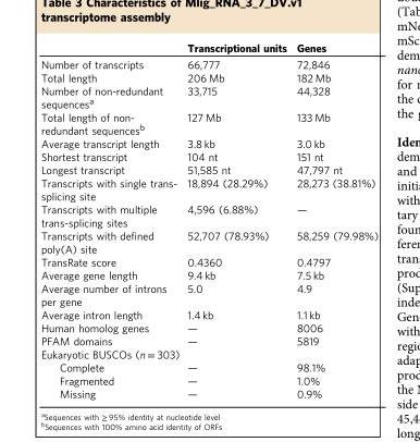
<table><thead><tr><td></td><td>Transcriptional units</td><td>Genes</td></tr></thead><tbody><tr><td>Number of transcripts</td><td>66,777</td><td>72,846</td></tr><tr><td>Total length</td><td>206 Mb</td><td>182 Mb</td></tr><tr><td>Number of non-redundant sequences<sup>a</sup></td><td>33,715</td><td>44,328</td></tr><tr><td>Total length of non- redundant sequences<sup>b</sup></td><td>127 Mb</td><td>133 Mb</td></tr><tr><td>Average transcript length</td><td>3.8 kb</td><td>3.0 kb</td></tr><tr><td>Shortest transcript</td><td>104 nt</td><td>151 nt</td></tr><tr><td>Longest transcript</td><td>51,585 nt</td><td>47,797 nt</td></tr><tr><td>Transcripts with single trans- splicing site</td><td>18,894 (28.29%)</td><td>28,273 (38.81%)</td></tr><tr><td>Transcripts with multiple trans-splicing sites</td><td>4,596 (6.88%)</td><td>—</td></tr><tr><td>Transcripts with defined poly(A) site</td><td>52,707 (78.93%)</td><td>58,259 (79.98%)</td></tr><tr><td>TransRate score</td><td>0.4360</td><td>0.4797</td></tr><tr><td>Average gene length</td><td>9.4 kb</td><td>7.5 kb</td></tr><tr><td>Average number of introns per gene</td><td>5.0</td><td>4.9</td></tr><tr><td>Average intron length</td><td>1.4 kb</td><td>1.1 kb</td></tr><tr><td>Human homolog genes</td><td>—</td><td>8006</td></tr><tr><td>PFAM domains</td><td>—</td><td>5819</td></tr><tr><td colspan="3">Eukaryotic BUSCOs (n = 303)</td></tr><tr><td>Complete</td><td>—</td><td>98.1%</td></tr><tr><td>Fragmented</td><td>—</td><td>1.0%</td></tr><tr><td>Missing</td><td>—</td><td>0.9%</td></tr></tbody></table>